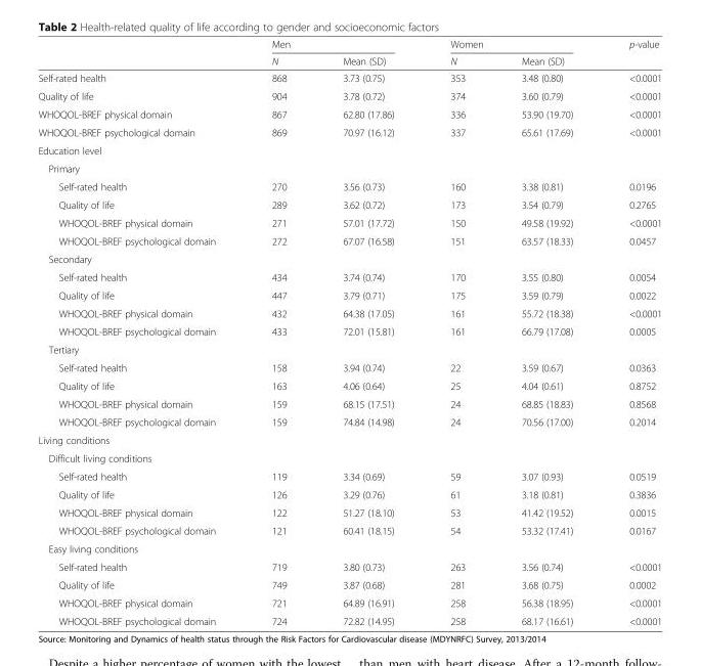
<table><thead><tr><td rowspan="2"></td><td colspan="2">Men</td><td colspan="2">Women</td><td rowspan="2">p-value</td></tr><tr><td>N</td><td>Mean (SD)</td><td>N</td><td>Mean (SD)</td></tr></thead><tbody><tr><td>Self-rated health</td><td>868</td><td>3.73 (0.75)</td><td>353</td><td>3.48 (0.80)</td><td>&lt;0.0001</td></tr><tr><td>Quality of life</td><td>904</td><td>3.78 (0.72)</td><td>374</td><td>3.60 (0.79)</td><td>&lt;0.0001</td></tr><tr><td>WHOQOL-BREF physical domain</td><td>867</td><td>62.80 (17.86)</td><td>336</td><td>53.90 (19.70)</td><td>&lt;0.0001</td></tr><tr><td>WHOQOL-BREF psychological domain</td><td>869</td><td>70.97 (16.12)</td><td>337</td><td>65.61 (17.69)</td><td>&lt;0.0001</td></tr><tr><td colspan="6">Education level</td></tr><tr><td colspan="6">Primary</td></tr><tr><td>Self-rated health</td><td>270</td><td>3.56 (0.73)</td><td>160</td><td>3.38 (0.81)</td><td>0.0196</td></tr><tr><td>Quality of life</td><td>289</td><td>3.62 (0.72)</td><td>173</td><td>3.54 (0.79)</td><td>0.2765</td></tr><tr><td>WHOQOL-BREF physical domain</td><td>271</td><td>57.01 (17.72)</td><td>150</td><td>49.58 (19.92)</td><td>&lt;0.0001</td></tr><tr><td>WHOQOL-BREF psychological domain</td><td>272</td><td>67.07 (16.58)</td><td>151</td><td>63.57 (18.33)</td><td>0.0457</td></tr><tr><td colspan="6">Secondary</td></tr><tr><td>Self-rated health</td><td>434</td><td>3.74 (0.74)</td><td>170</td><td>3.55 (0.80)</td><td>0.0054</td></tr><tr><td>Quality of life</td><td>447</td><td>3.79 (0.71)</td><td>175</td><td>3.59 (0.79)</td><td>0.0022</td></tr><tr><td>WHOQOL-BREF physical domain</td><td>432</td><td>64.38 (17.05)</td><td>161</td><td>55.72 (18.38)</td><td>&lt;0.0001</td></tr><tr><td>WHOQOL-BREF psychological domain</td><td>433</td><td>72.01 (15.81)</td><td>161</td><td>66.79 (17.08)</td><td>0.0005</td></tr><tr><td colspan="6">Tertiary</td></tr><tr><td>Self-rated health</td><td>158</td><td>3.94 (0.74)</td><td>22</td><td>3.59 (0.67)</td><td>0.0363</td></tr><tr><td>Quality of life</td><td>163</td><td>4.06 (0.64)</td><td>25</td><td>4.04 (0.61)</td><td>0.8752</td></tr><tr><td>WHOQOL-BREF physical domain</td><td>159</td><td>68.15 (17.51)</td><td>24</td><td>68.85 (18.83)</td><td>0.8568</td></tr><tr><td>WHOQOL-BREF psychological domain</td><td>159</td><td>74.84 (14.98)</td><td>24</td><td>70.56 (17.00)</td><td>0.2014</td></tr><tr><td colspan="6">Living conditions</td></tr><tr><td colspan="6">Difficult living conditions</td></tr><tr><td>Self-rated health</td><td>119</td><td>3.34 (0.69)</td><td>59</td><td>3.07 (0.93)</td><td>0.0519</td></tr><tr><td>Quality of life</td><td>126</td><td>3.29 (0.76)</td><td>61</td><td>3.18 (0.81)</td><td>0.3836</td></tr><tr><td>WHOQOL-BREF physical domain</td><td>122</td><td>51.27 (18.10)</td><td>53</td><td>41.42 (19.52)</td><td>0.0015</td></tr><tr><td>WHOQOL-BREF psychological domain</td><td>121</td><td>60.41 (18.15)</td><td>54</td><td>53.32 (17.41)</td><td>0.0167</td></tr><tr><td colspan="6">Easy living conditions</td></tr><tr><td>Self-rated health</td><td>719</td><td>3.80 (0.73)</td><td>263</td><td>3.56 (0.74)</td><td>&lt;0.0001</td></tr><tr><td>Quality of life</td><td>749</td><td>3.87 (0.68)</td><td>281</td><td>3.68 (0.75)</td><td>0.0002</td></tr><tr><td>WHOQOL-BREF physical domain</td><td>721</td><td>64.89 (16.91)</td><td>258</td><td>56.38 (18.95)</td><td>&lt;0.0001</td></tr><tr><td>WHOQOL-BREF psychological domain</td><td>724</td><td>72.82 (14.95)</td><td>258</td><td>68.17 (16.61)</td><td>&lt;0.0001</td></tr></tbody></table>